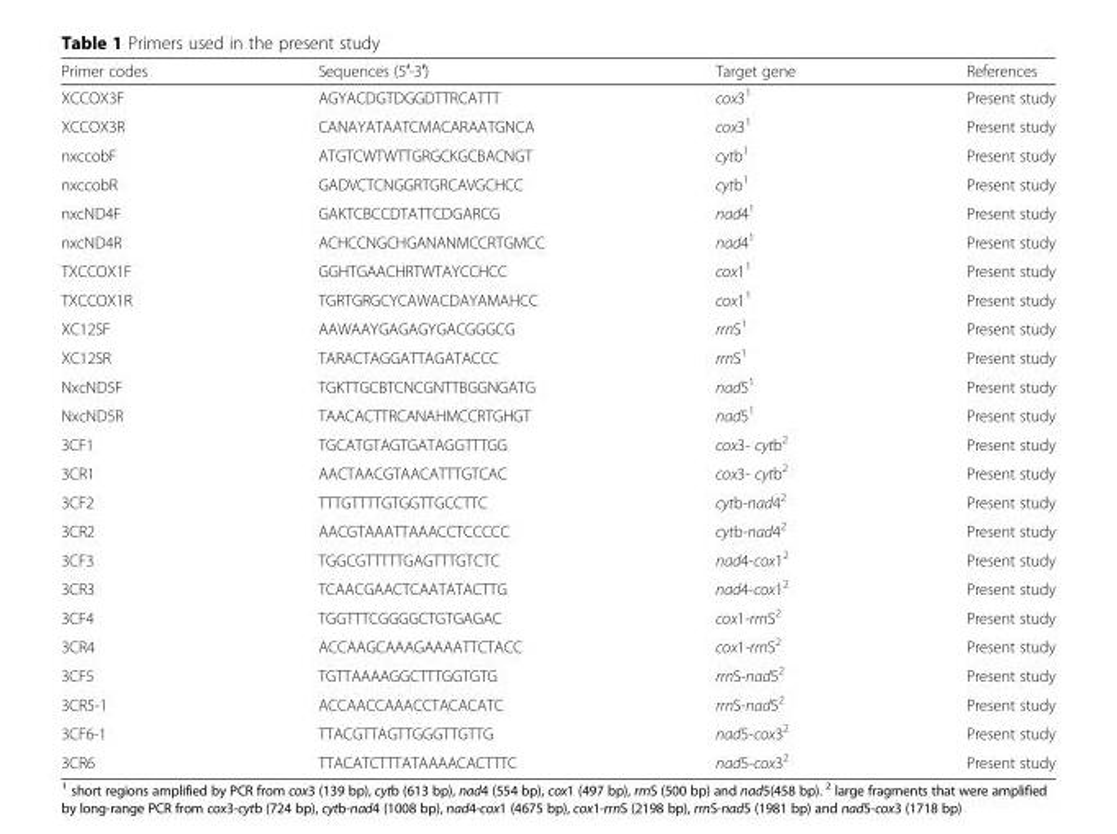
<table><thead><tr><td>Primer codes</td><td>Sequences (5′-3′)</td><td>Target gene</td><td>References</td></tr></thead><tbody><tr><td>XCCOX3F</td><td>AGYACDGTDGGDTTRCATTT</td><td>cox3<sup>1</sup></td><td>Present study</td></tr><tr><td>XCCOX3R</td><td>CANAYATAATCMACARAATGNCA</td><td>cox3<sup>1</sup></td><td>Present study</td></tr><tr><td>nxccobF</td><td>ATGTCWTWTTGRGCKGCBACNGT</td><td>cytb<sup>1</sup></td><td>Present study</td></tr><tr><td>nxccobR</td><td>GADVCTCNGGRTGRCAVGCHCC</td><td>cytb<sup>1</sup></td><td>Present study</td></tr><tr><td>nxcND4F</td><td>GAKTCBCCDTATTCDGARCG</td><td>nad4<sup>1</sup></td><td>Present study</td></tr><tr><td>nxcND4R</td><td>ACHCCNGCHGANANMCCRTGMCC</td><td>nad4<sup>1</sup></td><td>Present study</td></tr><tr><td>TXCCOX1F</td><td>GGHTGAACHRTWTAYCCHCC</td><td>cox1<sup>1</sup></td><td>Present study</td></tr><tr><td>TXCCOX1R</td><td>TGRTGRGCYCAWACDAYAMAHCC</td><td>cox1<sup>1</sup></td><td>Present study</td></tr><tr><td>XC12SF</td><td>AAWAAYGAGAGYGACGGGCG</td><td>rrnS<sup>1</sup></td><td>Present study</td></tr><tr><td>XC12SR</td><td>TARACTAGGATTAGATACCC</td><td>rrnS<sup>1</sup></td><td>Present study</td></tr><tr><td>NxcND5F</td><td>TGKTTGCBTCNCGNTTBGGNGATG</td><td>nad5<sup>1</sup></td><td>Present study</td></tr><tr><td>NxcND5R</td><td>TAACACTTRCANAHMCCRTGHGT</td><td>nad5<sup>1</sup></td><td>Present study</td></tr><tr><td>3CF1</td><td>TGCATGTAGTGATAGGTTTGG</td><td>cox3- cytb<sup>2</sup></td><td>Present study</td></tr><tr><td>3CR1</td><td>AACTAACGTAACATTTGTCAC</td><td>cox3- cytb<sup>2</sup></td><td>Present study</td></tr><tr><td>3CF2</td><td>TTTGTTTTGTGGTTGCCTTC</td><td>cytb-nad4<sup>2</sup></td><td>Present study</td></tr><tr><td>3CR2</td><td>AACGTAAATTAAACCTCCCCC</td><td>cytb-nad4<sup>2</sup></td><td>Present study</td></tr><tr><td>3CF3</td><td>TGGCGTTTTTGAGTTTGTCTC</td><td>nad4-cox1<sup>2</sup></td><td>Present study</td></tr><tr><td>3CR3</td><td>TCAACGAACTCAATATACTTG</td><td>nad4-cox1<sup>2</sup></td><td>Present study</td></tr><tr><td>3CF4</td><td>TGGTTTCGGGGCTGTGAGAC</td><td>cox1-rrnS<sup>2</sup></td><td>Present study</td></tr><tr><td>3CR4</td><td>ACCAAGCAAAGAAAATTCTACC</td><td>cox1-rrnS<sup>2</sup></td><td>Present study</td></tr><tr><td>3CF5</td><td>TGTTAAAAGGCTTTGGTGTG</td><td>rrnS-nad5<sup>2</sup></td><td>Present study</td></tr><tr><td>3CR5-1</td><td>ACCAACCAAACCTACACATC</td><td>rrnS-nad5<sup>2</sup></td><td>Present study</td></tr><tr><td>3CF6-1</td><td>TTACGTTAGTTGGGTTGTTG</td><td>nad5-cox3<sup>2</sup></td><td>Present study</td></tr><tr><td>3CR6</td><td>TTACATCTTTATAAAACACTTTC</td><td>nad5-cox3<sup>2</sup></td><td>Present study</td></tr></tbody></table>